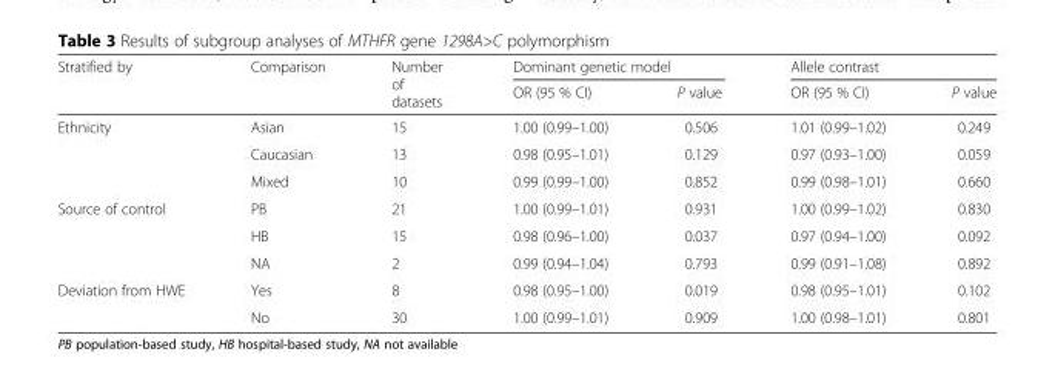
<table><thead><tr><td rowspan="2">Stratified by</td><td rowspan="2">Comparison</td><td rowspan="2">Number of datasets</td><td colspan="2">Dominant genetic model</td><td colspan="2">Allele contrast</td></tr><tr><td>OR (95 % CI)</td><td>P value</td><td>OR (95 % CI)</td><td>P value</td></tr></thead><tbody><tr><td rowspan="3">Ethnicity</td><td>Asian</td><td>15</td><td>1.00 (0.99–1.00)</td><td>0.506</td><td>1.01 (0.99–1.02)</td><td>0.249</td></tr><tr><td>Caucasian</td><td>13</td><td>0.98 (0.95–1.01)</td><td>0.129</td><td>0.97 (0.93–1.00)</td><td>0.059</td></tr><tr><td>Mixed</td><td>10</td><td>0.99 (0.99–1.00)</td><td>0.852</td><td>0.99 (0.98–1.01)</td><td>0.660</td></tr><tr><td rowspan="3">Source of control</td><td>PB</td><td>21</td><td>1.00 (0.99–1.01)</td><td>0.931</td><td>1.00 (0.99–1.02)</td><td>0.830</td></tr><tr><td>HB</td><td>15</td><td>0.98 (0.96–1.00)</td><td>0.037</td><td>0.97 (0.94–1.00)</td><td>0.092</td></tr><tr><td>NA</td><td>2</td><td>0.99 (0.94–1.04)</td><td>0.793</td><td>0.99 (0.91–1.08)</td><td>0.892</td></tr><tr><td rowspan="2">Deviation from HWE</td><td>Yes</td><td>8</td><td>0.98 (0.95–1.00)</td><td>0.019</td><td>0.98 (0.95–1.01)</td><td>0.102</td></tr><tr><td>No</td><td>30</td><td>1.00 (0.99–1.01)</td><td>0.909</td><td>1.00 (0.98–1.01)</td><td>0.801</td></tr></tbody></table>